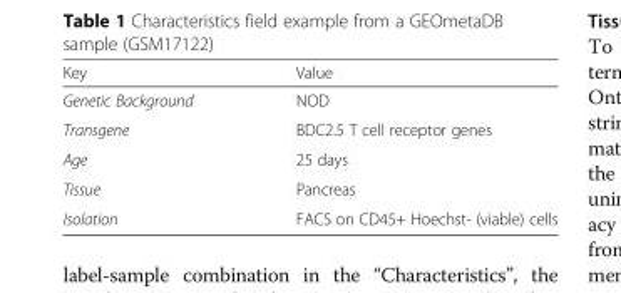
<table><thead><tr><td>Key</td><td>Value</td></tr></thead><tbody><tr><td>Genetic Background</td><td>NOD</td></tr><tr><td>Transgene</td><td>BDC2.5 T cell receptor genes</td></tr><tr><td>Age</td><td>25 days</td></tr><tr><td>Tissue</td><td>Pancreas</td></tr><tr><td>Isolation</td><td>FACS on CD45+ Hoechst- (viable) cells</td></tr></tbody></table>